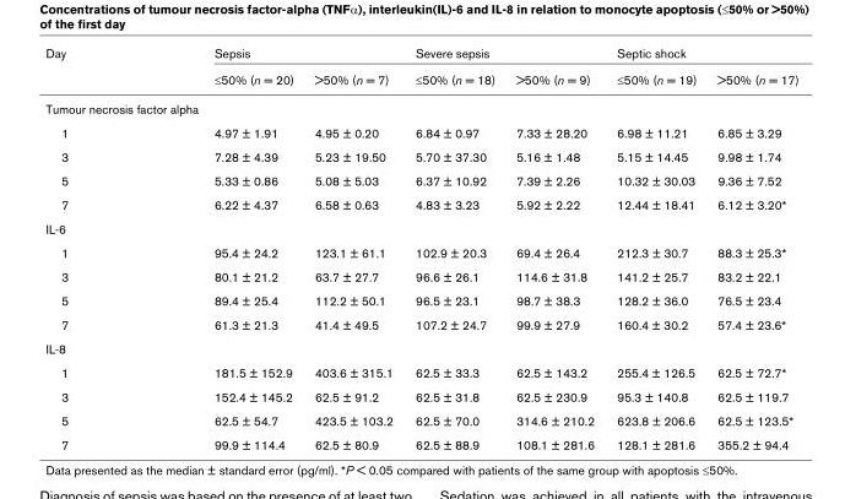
<table><thead><tr><td rowspan="2">Day</td><td colspan="2">Sepsis</td><td colspan="2">Severe sepsis</td><td colspan="2">Septic shock</td></tr><tr><td>≤50% (n = 20)</td><td>&gt;50% (n = 7)</td><td>≤50% (n = 18)</td><td>&gt;50% (n = 9)</td><td>≤50% (n = 19)</td><td>&gt;50% (n = 17)</td></tr></thead><tbody><tr><td colspan="7">Tumour necrosis factor alpha</td></tr><tr><td>1</td><td>4.97 ± 1.91</td><td>4.95 ± 0.20</td><td>6.84 ± 0.97</td><td>7.33 ± 28.20</td><td>6.98 ± 11.21</td><td>6.85 ± 3.29</td></tr><tr><td>3</td><td>7.28 ± 4.39</td><td>5.23 ± 19.50</td><td>5.70 ± 37.30</td><td>5.16 ± 1.48</td><td>5.15 ± 14.45</td><td>9.98 ± 1.74</td></tr><tr><td>5</td><td>5.33 ± 0.86</td><td>5.08 ± 5.03</td><td>6.37 ± 10.92</td><td>7.39 ± 2.26</td><td>10.32 ± 30.03</td><td>9.36 ± 7.52</td></tr><tr><td>7</td><td>6.22 ± 4.37</td><td>6.58 ± 0.63</td><td>4.83 ± 3.23</td><td>5.92 ± 2.22</td><td>12.44 ± 18.41</td><td>6.12 ± 3.20*</td></tr><tr><td colspan="7">IL-6</td></tr><tr><td>1</td><td>95.4 ± 24.2</td><td>123.1 ± 61.1</td><td>102.9 ± 20.3</td><td>69.4 ± 26.4</td><td>212.3 ± 30.7</td><td>88.3 ± 25.3*</td></tr><tr><td>3</td><td>80.1 ± 21.2</td><td>63.7 ± 27.7</td><td>96.6 ± 26.1</td><td>114.6 ± 31.8</td><td>141.2 ± 25.7</td><td>83.2 ± 22.1</td></tr><tr><td>5</td><td>89.4 ± 25.4</td><td>112.2 ± 50.1</td><td>96.5 ± 23.1</td><td>98.7 ± 38.3</td><td>128.2 ± 36.0</td><td>76.5 ± 23.4</td></tr><tr><td>7</td><td>61.3 ± 21.3</td><td>41.4 ± 49.5</td><td>107.2 ± 24.7</td><td>99.9 ± 27.9</td><td>160.4 ± 30.2</td><td>57.4 ± 23.6*</td></tr><tr><td colspan="7">IL-8</td></tr><tr><td>1</td><td>181.5 ± 152.9</td><td>403.6 ± 315.1</td><td>62.5 ± 33.3</td><td>62.5 ± 143.2</td><td>255.4 ± 126.5</td><td>62.5 ± 72.7*</td></tr><tr><td>3</td><td>152.4 ± 145.2</td><td>62.5 ± 91.2</td><td>62.5 ± 31.8</td><td>62.5 ± 230.9</td><td>95.3 ± 140.8</td><td>62.5 ± 119.7</td></tr><tr><td>5</td><td>62.5 ± 54.7</td><td>423.5 ± 103.2</td><td>62.5 ± 70.0</td><td>314.6 ± 210.2</td><td>623.8 ± 206.6</td><td>62.5 ± 123.5*</td></tr><tr><td>7</td><td>99.9 ± 114.4</td><td>62.5 ± 80.9</td><td>62.5 ± 88.9</td><td>108.1 ± 281.6</td><td>128.1 ± 281.6</td><td>355.2 ± 94.4</td></tr></tbody></table>